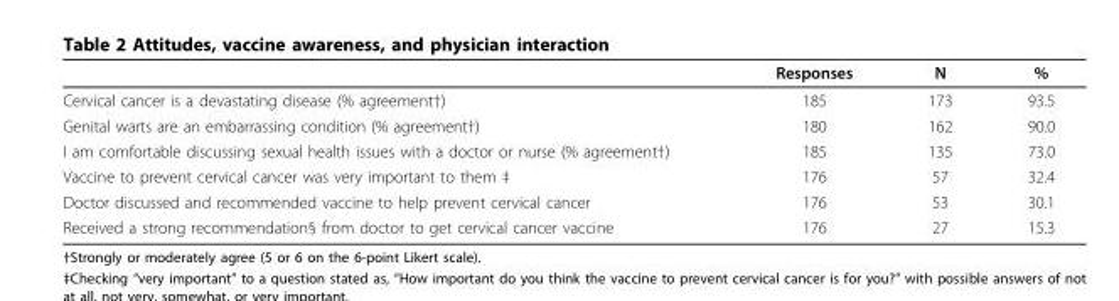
<table><thead><tr><td></td><td>Responses</td><td>N</td><td>%</td></tr></thead><tbody><tr><td>Cervical cancer is a devastating disease (% agreement†)</td><td>185</td><td>173</td><td>93.5</td></tr><tr><td>Genital warts are an embarrassing condition (% agreement†)</td><td>180</td><td>162</td><td>90.0</td></tr><tr><td>I am comfortable discussing sexual health issues with a doctor or nurse (% agreement†)</td><td>185</td><td>135</td><td>73.0</td></tr><tr><td>Vaccine to prevent cervical cancer was very important to them ‡</td><td>176</td><td>57</td><td>32.4</td></tr><tr><td>Doctor discussed and recommended vaccine to help prevent cervical cancer</td><td>176</td><td>53</td><td>30.1</td></tr><tr><td>Received a strong recommendation§ from doctor to get cervical cancer vaccine</td><td>176</td><td>27</td><td>15.3</td></tr></tbody></table>